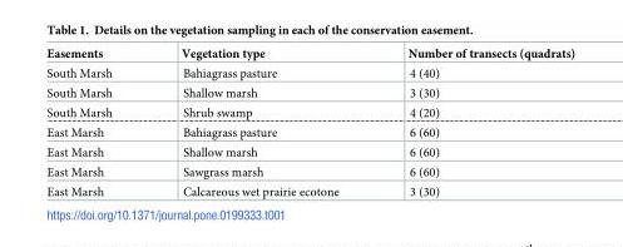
<table><thead><tr><td>Easements</td><td>Vegetation type</td><td>Number of transects (quadrats)</td></tr></thead><tbody><tr><td>South Marsh</td><td>Bahiagrass pasture</td><td>4 (40)</td></tr><tr><td>South Marsh</td><td>Shallow marsh</td><td>3 (30)</td></tr><tr><td>South Marsh</td><td>Shrub swamp</td><td>4 (20)</td></tr><tr><td>East Marsh</td><td>Bahiagrass pasture</td><td>6 (60)</td></tr><tr><td>East Marsh</td><td>Shallow marsh</td><td>6 (60)</td></tr><tr><td>East Marsh</td><td>Sawgrass marsh</td><td>6 (60)</td></tr><tr><td>East Marsh</td><td>Calcareous wet prairie ecotone</td><td>3 (30)</td></tr></tbody></table>